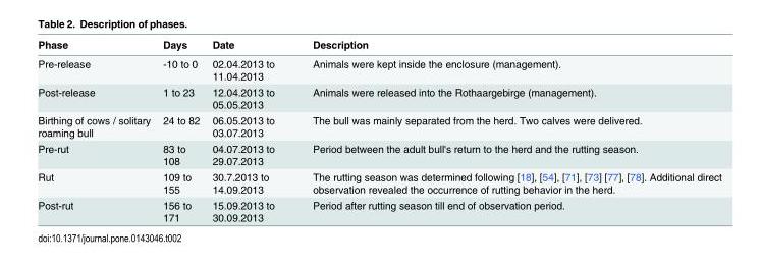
<table><thead><tr><td>Phase</td><td>Days</td><td>Date</td><td>Description</td></tr></thead><tbody><tr><td>Pre-release</td><td>-10 to 0</td><td>02.04.2013 to 11.04.2013</td><td>Animals were kept inside the enclosure (management).</td></tr><tr><td>Post-release</td><td>1 to 23</td><td>12.04.2013 to 05.05.2013</td><td>Animals were released into the Rothaargebirge (management).</td></tr><tr><td>Birthing of cows / solitary roaming bull</td><td>24 to 82</td><td>06.05.2013 to 03.07.2013</td><td>The bull was mainly separated from the herd. Two calves were delivered.</td></tr><tr><td>Pre-rut</td><td>83 to 108</td><td>04.07.2013 to 29.07.2013</td><td>Period between the adult bull&#x27;s return to the herd and the rutting season.</td></tr><tr><td>Rut</td><td>109 to 155</td><td>30.7.2013 to 14.09.2013</td><td>The rutting season was determined following [18], [54], [71], [73] [77], [78]. Additional direct observation revealed the occurrence of rutting behavior in the herd.</td></tr><tr><td>Post-rut</td><td>156 to 171</td><td>15.09.2013 to 30.09.2013</td><td>Period after rutting season till end of observation period.</td></tr></tbody></table>